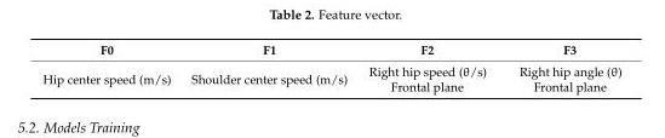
<table><thead><tr><td>F0</td><td>F1</td><td>F2</td><td>F3</td></tr></thead><tbody><tr><td>Hip center speed (m/s)</td><td>Shoulder center speed (m/s)</td><td>Right hip speed (θ/s) Frontal plane</td><td>Right hip angle (θ) Frontal plane</td></tr></tbody></table>